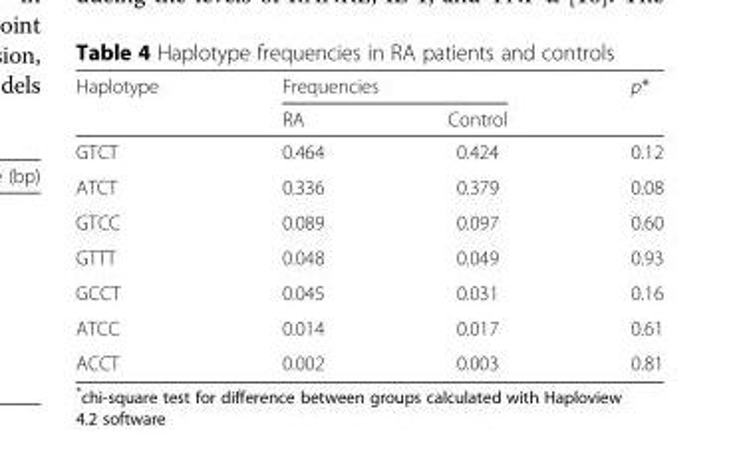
<table><thead><tr><td rowspan="2">Haplotype</td><td colspan="2">Frequencies</td><td rowspan="2">p*</td></tr><tr><td>RA</td><td>Control</td></tr></thead><tbody><tr><td>GTCT</td><td>0.464</td><td>0.424</td><td>0.12</td></tr><tr><td>ATCT</td><td>0.336</td><td>0.379</td><td>0.08</td></tr><tr><td>GTCC</td><td>0.089</td><td>0.097</td><td>0.60</td></tr><tr><td>GTTT</td><td>0.048</td><td>0.049</td><td>0.93</td></tr><tr><td>GCCT</td><td>0.045</td><td>0.031</td><td>0.16</td></tr><tr><td>ATCC</td><td>0.014</td><td>0.017</td><td>0.61</td></tr><tr><td>ACCT</td><td>0.002</td><td>0.003</td><td>0.81</td></tr></tbody></table>